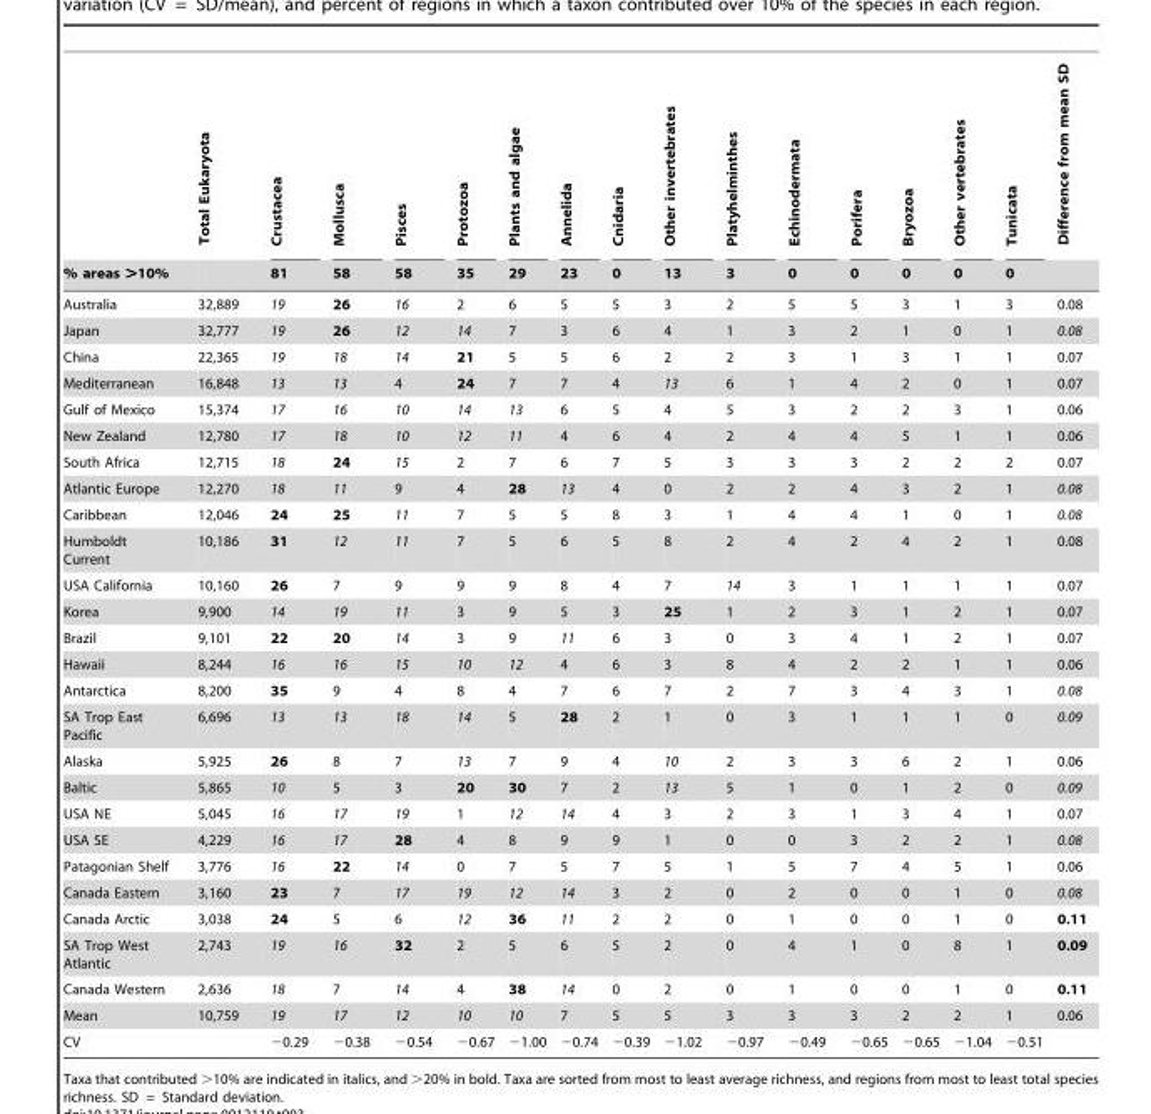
<table><thead><tr><td rowspan="2">% areas &gt;10%</td><td rowspan="2">Total Eukaryota</td><td rowspan="2">Crustacea 81</td><td rowspan="2">Mollusca 58</td><td rowspan="2">Pisces 58</td><td rowspan="2">Protozoa 35</td><td rowspan="2">Plants and algae 29</td><td rowspan="2">Annelida 23</td><td rowspan="2">Cnidaria 0</td><td rowspan="2">Other invertebrates 13</td><td rowspan="2">Platyhelminthes 3</td><td rowspan="2">Echinodermata 0</td><td rowspan="2">Porifera 0</td><td rowspan="2">Bryozoa 0</td><td rowspan="2">Other vertebrates 0</td><td rowspan="2">Tunicata 0</td><td rowspan="2">Difference from mean SD</td></tr><tr></tr></thead><tbody><tr><td>Australia</td><td>32,889</td><td>19</td><td>26</td><td>16</td><td>2</td><td>6</td><td>5</td><td>5</td><td>3</td><td>2</td><td>5</td><td>5</td><td>3</td><td>1</td><td>3</td><td>0.08</td></tr><tr><td>Japan</td><td>32,777</td><td>19</td><td>26</td><td>12</td><td>14</td><td>7</td><td>3</td><td>6</td><td>4</td><td>1</td><td>3</td><td>2</td><td>1</td><td>0</td><td>1</td><td>0.08</td></tr><tr><td>China</td><td>22,365</td><td>19</td><td>18</td><td>14</td><td>21</td><td>5</td><td>5</td><td>6</td><td>2</td><td>2</td><td>3</td><td>1</td><td>3</td><td>1</td><td>1</td><td>0.07</td></tr><tr><td>Mediterranean</td><td>16,848</td><td>13</td><td>13</td><td>4</td><td>24</td><td>7</td><td>7</td><td>4</td><td>13</td><td>6</td><td>1</td><td>4</td><td>2</td><td>0</td><td>1</td><td>0.07</td></tr><tr><td>Gulf of Mexico</td><td>15,374</td><td>17</td><td>16</td><td>10</td><td>14</td><td>13</td><td>6</td><td>5</td><td>4</td><td>5</td><td>3</td><td>2</td><td>2</td><td>3</td><td>1</td><td>0.06</td></tr><tr><td>New Zealand</td><td>12,780</td><td>17</td><td>18</td><td>10</td><td>12</td><td>11</td><td>4</td><td>6</td><td>4</td><td>2</td><td>4</td><td>4</td><td>5</td><td>1</td><td>1</td><td>0.06</td></tr><tr><td>South Africa</td><td>12,715</td><td>18</td><td>24</td><td>15</td><td>2</td><td>7</td><td>6</td><td>7</td><td>5</td><td>3</td><td>3</td><td>3</td><td>2</td><td>2</td><td>2</td><td>0.07</td></tr><tr><td>Atlantic Europe</td><td>12,270</td><td>18</td><td>11</td><td>9</td><td>4</td><td>28</td><td>13</td><td>4</td><td>0</td><td>2</td><td>2</td><td>4</td><td>3</td><td>2</td><td>1</td><td>0.08</td></tr><tr><td>Caribbean</td><td>12,046</td><td>24</td><td>25</td><td>11</td><td>7</td><td>5</td><td>5</td><td>8</td><td>3</td><td>1</td><td>4</td><td>4</td><td>1</td><td>0</td><td>1</td><td>0.08</td></tr><tr><td>Humboldt Current</td><td>10,186</td><td>31</td><td>12</td><td>11</td><td>7</td><td>5</td><td>6</td><td>5</td><td>8</td><td>2</td><td>4</td><td>2</td><td>4</td><td>2</td><td>1</td><td>0.08</td></tr><tr><td>USA California</td><td>10,160</td><td>26</td><td>7</td><td>9</td><td>9</td><td>9</td><td>8</td><td>4</td><td>7</td><td>14</td><td>3</td><td>1</td><td>1</td><td>1</td><td>1</td><td>0.07</td></tr><tr><td>Korea</td><td>9,900</td><td>14</td><td>19</td><td>11</td><td>3</td><td>9</td><td>5</td><td>3</td><td>25</td><td>1</td><td>2</td><td>3</td><td>1</td><td>2</td><td>1</td><td>0.07</td></tr><tr><td>Brazil</td><td>9,101</td><td>22</td><td>20</td><td>14</td><td>3</td><td>9</td><td>11</td><td>6</td><td>3</td><td>0</td><td>3</td><td>4</td><td>1</td><td>2</td><td>1</td><td>0.07</td></tr><tr><td>Hawaii</td><td>8,244</td><td>16</td><td>16</td><td>15</td><td>10</td><td>12</td><td>4</td><td>6</td><td>3</td><td>8</td><td>4</td><td>2</td><td>2</td><td>1</td><td>1</td><td>0.06</td></tr><tr><td>Antarctica</td><td>8,200</td><td>35</td><td>9</td><td>4</td><td>8</td><td>4</td><td>7</td><td>6</td><td>7</td><td>2</td><td>7</td><td>3</td><td>4</td><td>3</td><td>1</td><td>0.08</td></tr><tr><td>SA Trop East Pacific</td><td>6,696</td><td>13</td><td>13</td><td>18</td><td>14</td><td>5</td><td>28</td><td>2</td><td>1</td><td>0</td><td>3</td><td>1</td><td>1</td><td>1</td><td>0</td><td>0.09</td></tr><tr><td>Alaska</td><td>5,925</td><td>26</td><td>8</td><td>7</td><td>13</td><td>7</td><td>9</td><td>4</td><td>10</td><td>2</td><td>3</td><td>3</td><td>6</td><td>2</td><td>1</td><td>0.06</td></tr><tr><td>Baltic</td><td>5,865</td><td>10</td><td>5</td><td>3</td><td>20</td><td>30</td><td>7</td><td>2</td><td>13</td><td>5</td><td>1</td><td>0</td><td>1</td><td>2</td><td>0</td><td>0.09</td></tr><tr><td>USA NE</td><td>5,045</td><td>16</td><td>17</td><td>19</td><td>1</td><td>12</td><td>14</td><td>4</td><td>3</td><td>2</td><td>3</td><td>1</td><td>3</td><td>4</td><td>1</td><td>0.07</td></tr><tr><td>USA SE</td><td>4,229</td><td>16</td><td>17</td><td>28</td><td>4</td><td>8</td><td>9</td><td>9</td><td>1</td><td>0</td><td>0</td><td>3</td><td>2</td><td>2</td><td>1</td><td>0.08</td></tr><tr><td>Patagonian Shelf</td><td>3,776</td><td>16</td><td>22</td><td>14</td><td>0</td><td>7</td><td>5</td><td>7</td><td>5</td><td>1</td><td>5</td><td>7</td><td>4</td><td>5</td><td>1</td><td>0.06</td></tr><tr><td>Canada Eastern</td><td>3,160</td><td>23</td><td>7</td><td>17</td><td>19</td><td>12</td><td>14</td><td>3</td><td>2</td><td>0</td><td>2</td><td>0</td><td>0</td><td>1</td><td>0</td><td>0.08</td></tr><tr><td>Canada Arctic</td><td>3,038</td><td>24</td><td>5</td><td>6</td><td>12</td><td>36</td><td>11</td><td>2</td><td>2</td><td>0</td><td>1</td><td>0</td><td>0</td><td>1</td><td>0</td><td>0.11</td></tr><tr><td>SA Trop West Atlantic</td><td>2,743</td><td>19</td><td>16</td><td>32</td><td>2</td><td>5</td><td>6</td><td>5</td><td>2</td><td>0</td><td>4</td><td>1</td><td>0</td><td>8</td><td>1</td><td>0.09</td></tr><tr><td>Canada Western</td><td>2,636</td><td>18</td><td>7</td><td>14</td><td>4</td><td>38</td><td>14</td><td>0</td><td>2</td><td>0</td><td>1</td><td>0</td><td>0</td><td>1</td><td>0</td><td>0.11</td></tr><tr><td>Mean</td><td>10,759</td><td>19</td><td>17</td><td>12</td><td>10</td><td>10</td><td>7</td><td>5</td><td>5</td><td>3</td><td>3</td><td>3</td><td>2</td><td>2</td><td>1</td><td>0.06</td></tr><tr><td>CV</td><td></td><td>−0.29</td><td>−0.38</td><td>−0.54</td><td>−0.67</td><td>−1.00</td><td>−0.74</td><td>−0.39</td><td>−1.02</td><td>−0.97</td><td>−0.49</td><td>−0.65</td><td>−0.65</td><td>−1.04</td><td>−0.51</td><td></td></tr></tbody></table>